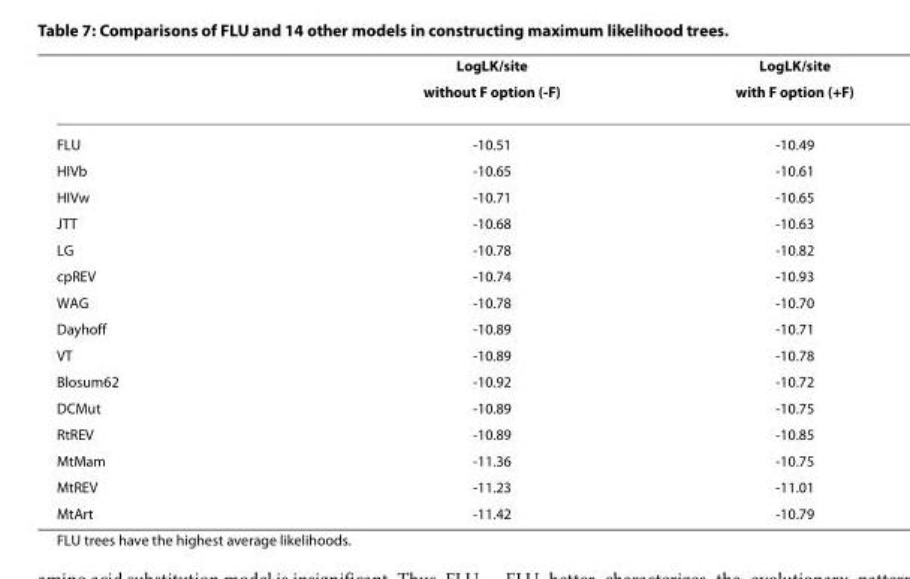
<table><thead><tr><td rowspan="2"></td><td rowspan="2">LogLK/site without F option (-F)</td><td rowspan="2">LogLK/site with F option (+F)</td></tr><tr></tr></thead><tbody><tr><td>FLU</td><td>-10.51</td><td>-10.49</td></tr><tr><td>HIVb</td><td>-10.65</td><td>-10.61</td></tr><tr><td>HIVw</td><td>-10.71</td><td>-10.65</td></tr><tr><td>JTT</td><td>-10.68</td><td>-10.63</td></tr><tr><td>LG</td><td>-10.78</td><td>-10.82</td></tr><tr><td>cpREV</td><td>-10.74</td><td>-10.93</td></tr><tr><td>WAG</td><td>-10.78</td><td>-10.70</td></tr><tr><td>Dayhoff</td><td>-10.89</td><td>-10.71</td></tr><tr><td>VT</td><td>-10.89</td><td>-10.78</td></tr><tr><td>Blosum62</td><td>-10.92</td><td>-10.72</td></tr><tr><td>DCMut</td><td>-10.89</td><td>-10.75</td></tr><tr><td>RtREV</td><td>-10.89</td><td>-10.85</td></tr><tr><td>MtMam</td><td>-11.36</td><td>-10.75</td></tr><tr><td>MtREV</td><td>-11.23</td><td>-11.01</td></tr><tr><td>MtArt</td><td>-11.42</td><td>-10.79</td></tr></tbody></table>